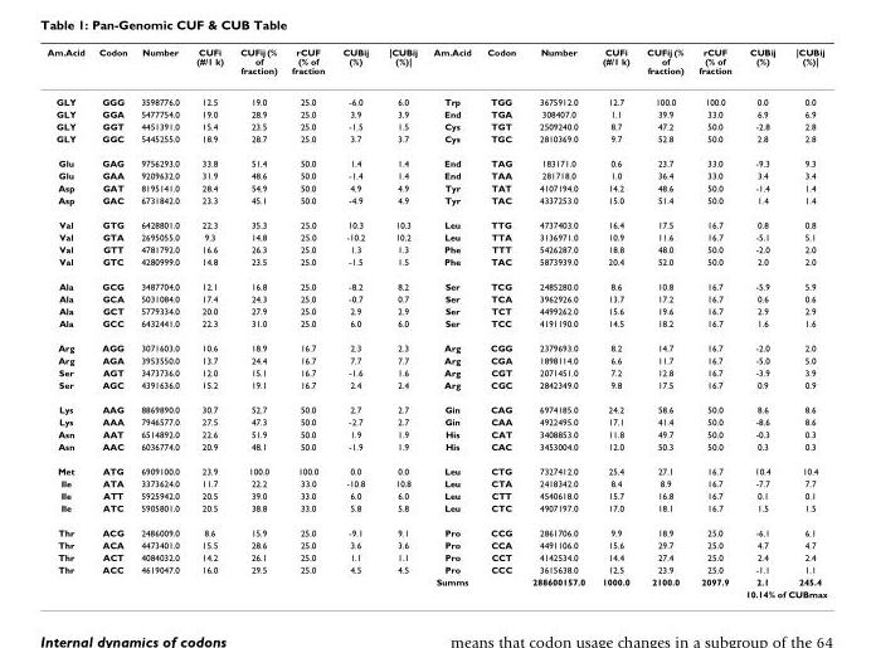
<table><thead><tr><td>Am.Acid</td><td>Codon</td><td>Number</td><td>CUFi (#/1 k)</td><td>CUFij (% of fraction)</td><td>rCUF (% of fraction</td><td>CUBij (%)</td><td>|CUBij (%)|</td><td>Am.Acid</td><td>Codon</td><td>Number</td><td>CUFi (#/1 k)</td><td>CUFij (% of fraction)</td><td>rCUF (% of fraction</td><td>CUBij (%)</td><td>|CUBij (%)|</td></tr></thead><tbody><tr><td>GLY</td><td>GGG</td><td>3598776.0</td><td>12.5</td><td>19.0</td><td>25.0</td><td>-6.0</td><td>6.0</td><td>Trp</td><td>TGG</td><td>3675912.0</td><td>12.7</td><td>100.0</td><td>100.0</td><td>0.0</td><td>0.0</td></tr><tr><td>GLY</td><td>GGA</td><td>5477754.0</td><td>19.0</td><td>28.9</td><td>25.0</td><td>3.9</td><td>3.9</td><td>End</td><td>TGA</td><td>308407.0</td><td>1.1</td><td>39.9</td><td>33.0</td><td>6.9</td><td>6.9</td></tr><tr><td>GLY</td><td>GGT</td><td>4451391.0</td><td>15.4</td><td>23.5</td><td>25.0</td><td>-1.5</td><td>1.5</td><td>Cys</td><td>TGT</td><td>2509240.0</td><td>8.7</td><td>47.2</td><td>50.0</td><td>-2.8</td><td>2.8</td></tr><tr><td>GLY</td><td>GGC</td><td>5445255.0</td><td>18.9</td><td>28.7</td><td>25.0</td><td>3.7</td><td>3.7</td><td>Cys</td><td>TGC</td><td>2810369.0</td><td>9.7</td><td>52.8</td><td>50.0</td><td>2.8</td><td>2.8</td></tr><tr><td>Glu</td><td>GAG</td><td>9756293.0</td><td>33.8</td><td>51.4</td><td>50.0</td><td>1.4</td><td>1.4</td><td>End</td><td>TAG</td><td>183171.0</td><td>0.6</td><td>23.7</td><td>33.0</td><td>-9.3</td><td>9.3</td></tr><tr><td>Glu</td><td>GAA</td><td>9209632.0</td><td>31.9</td><td>48.6</td><td>50.0</td><td>-1.4</td><td>1.4</td><td>End</td><td>TAA</td><td>281718.0</td><td>1.0</td><td>36.4</td><td>33.0</td><td>3.4</td><td>3.4</td></tr><tr><td>Asp</td><td>GAT</td><td>8195141.0</td><td>28.4</td><td>54.9</td><td>50.0</td><td>4.9</td><td>4.9</td><td>Tyr</td><td>TAT</td><td>4107194.0</td><td>14.2</td><td>48.6</td><td>50.0</td><td>-1.4</td><td>1.4</td></tr><tr><td>Asp</td><td>GAC</td><td>6731842.0</td><td>23.3</td><td>45.1</td><td>50.0</td><td>-4.9</td><td>4.9</td><td>Tyr</td><td>TAC</td><td>4337253.0</td><td>15.0</td><td>51.4</td><td>50.0</td><td>1.4</td><td>1.4</td></tr><tr><td>Val</td><td>GTG</td><td>6428801.0</td><td>22.3</td><td>35.3</td><td>25.0</td><td>10.3</td><td>10.3</td><td>Leu</td><td>TTG</td><td>4737403.0</td><td>16.4</td><td>17.5</td><td>16.7</td><td>0.8</td><td>0.8</td></tr><tr><td>Val</td><td>GTA</td><td>2695055.0</td><td>9.3</td><td>14.8</td><td>25.0</td><td>-10.2</td><td>10.2</td><td>Leu</td><td>TTA</td><td>3136971.0</td><td>10.9</td><td>11.6</td><td>16.7</td><td>-5.1</td><td>5.1</td></tr><tr><td>Val</td><td>GTT</td><td>4781792.0</td><td>16.6</td><td>26.3</td><td>25.0</td><td>1.3</td><td>1.3</td><td>Phe</td><td>TTT</td><td>5426287.0</td><td>18.8</td><td>48.0</td><td>50.0</td><td>-2.0</td><td>2.0</td></tr><tr><td>Val</td><td>GTC</td><td>4280999.0</td><td>14.8</td><td>23.5</td><td>25.0</td><td>-1.5</td><td>1.5</td><td>Phe</td><td>TAC</td><td>5873939.0</td><td>20.4</td><td>52.0</td><td>50.0</td><td>2.0</td><td>2.0</td></tr><tr><td>Ala</td><td>GCG</td><td>3487704.0</td><td>12.1</td><td>16.8</td><td>25.0</td><td>-8.2</td><td>8.2</td><td>Ser</td><td>TCG</td><td>2485280.0</td><td>8.6</td><td>10.8</td><td>16.7</td><td>-5.9</td><td>5.9</td></tr><tr><td>Ala</td><td>GCA</td><td>5031084.0</td><td>17.4</td><td>24.3</td><td>25.0</td><td>-0.7</td><td>0.7</td><td>Ser</td><td>TCA</td><td>3962926.0</td><td>13.7</td><td>17.2</td><td>16.7</td><td>0.6</td><td>0.6</td></tr><tr><td>Ala</td><td>GCT</td><td>5779334.0</td><td>20.0</td><td>27.9</td><td>25.0</td><td>2.9</td><td>2.9</td><td>Ser</td><td>TCT</td><td>4499262.0</td><td>15.6</td><td>19.6</td><td>16.7</td><td>2.9</td><td>2.9</td></tr><tr><td>Ala</td><td>GCC</td><td>6432441.0</td><td>22.3</td><td>31.0</td><td>25.0</td><td>6.0</td><td>6.0</td><td>Ser</td><td>TCC</td><td>4191190.0</td><td>14.5</td><td>18.2</td><td>16.7</td><td>1.6</td><td>1.6</td></tr><tr><td>Arg</td><td>AGG</td><td>3071603.0</td><td>10.6</td><td>18.9</td><td>16.7</td><td>2.3</td><td>2.3</td><td>Arg</td><td>CGG</td><td>2379693.0</td><td>8.2</td><td>14.7</td><td>16.7</td><td>-2.0</td><td>2.0</td></tr><tr><td>Arg</td><td>AGA</td><td>3953550.0</td><td>13.7</td><td>24.4</td><td>16.7</td><td>7.7</td><td>7.7</td><td>Arg</td><td>CGA</td><td>1898114.0</td><td>6.6</td><td>11.7</td><td>16.7</td><td>-5.0</td><td>5.0</td></tr><tr><td>Ser</td><td>AGT</td><td>3473736.0</td><td>12.0</td><td>15.1</td><td>16.7</td><td>-1.6</td><td>1.6</td><td>Arg</td><td>CGT</td><td>2071451.0</td><td>7.2</td><td>12.8</td><td>16.7</td><td>-3.9</td><td>3.9</td></tr><tr><td>Ser</td><td>AGC</td><td>4391636.0</td><td>15.2</td><td>19.1</td><td>16.7</td><td>2.4</td><td>2.4</td><td>Arg</td><td>CGC</td><td>2842349.0</td><td>9.8</td><td>17.5</td><td>16.7</td><td>0.9</td><td>0.9</td></tr><tr><td>Lys</td><td>AAG</td><td>8869890.0</td><td>30.7</td><td>52.7</td><td>50.0</td><td>2.7</td><td>2.7</td><td>Gin</td><td>CAG</td><td>6974185.0</td><td>24.2</td><td>58.6</td><td>50.0</td><td>8.6</td><td>8.6</td></tr><tr><td>Lys</td><td>AAA</td><td>7946577.0</td><td>27.5</td><td>47.3</td><td>50.0</td><td>-2.7</td><td>2.7</td><td>Gin</td><td>CAA</td><td>4922495.0</td><td>17.1</td><td>41.4</td><td>50.0</td><td>-8.6</td><td>8.6</td></tr><tr><td>Asn</td><td>AAT</td><td>6514892.0</td><td>22.6</td><td>51.9</td><td>50.0</td><td>1.9</td><td>1.9</td><td>His</td><td>CAT</td><td>3408853.0</td><td>11.8</td><td>49.7</td><td>50.0</td><td>-0.3</td><td>0.3</td></tr><tr><td>Asn</td><td>AAC</td><td>6036774.0</td><td>20.9</td><td>48.1</td><td>50.0</td><td>-1.9</td><td>1.9</td><td>His</td><td>CAC</td><td>3453004.0</td><td>12.0</td><td>50.3</td><td>50.0</td><td>0.3</td><td>0.3</td></tr><tr><td>Met</td><td>ATG</td><td>6909100.0</td><td>23.9</td><td>100.0</td><td>100.0</td><td>0.0</td><td>0.0</td><td>Leu</td><td>CTG</td><td>7327412.0</td><td>25.4</td><td>27.1</td><td>16.7</td><td>10.4</td><td>10.4</td></tr><tr><td>Ile</td><td>ATA</td><td>3373624.0</td><td>11.7</td><td>22.2</td><td>33.0</td><td>-10.8</td><td>10.8</td><td>Leu</td><td>CTA</td><td>2418342.0</td><td>8.4</td><td>8.9</td><td>16.7</td><td>-7.7</td><td>7.7</td></tr><tr><td>Ile</td><td>ATT</td><td>5925942.0</td><td>20.5</td><td>39.0</td><td>33.0</td><td>6.0</td><td>6.0</td><td>Leu</td><td>CTT</td><td>4540618.0</td><td>15.7</td><td>16.8</td><td>16.7</td><td>0.1</td><td>0.1</td></tr><tr><td>Ile</td><td>ATC</td><td>5905801.0</td><td>20.5</td><td>38.8</td><td>33.0</td><td>5.8</td><td>5.8</td><td>Leu</td><td>CTC</td><td>4907197.0</td><td>17.0</td><td>18.1</td><td>16.7</td><td>1.5</td><td>1.5</td></tr><tr><td>Thr</td><td>ACG</td><td>2486009.0</td><td>8.6</td><td>15.9</td><td>25.0</td><td>-9.1</td><td>9.1</td><td>Pro</td><td>CCG</td><td>2861706.0</td><td>9.9</td><td>18.9</td><td>25.0</td><td>-6.1</td><td>6.1</td></tr><tr><td>Thr</td><td>ACA</td><td>4473401.0</td><td>15.5</td><td>28.6</td><td>25.0</td><td>3.6</td><td>3.6</td><td>Pro</td><td>CCA</td><td>4491106.0</td><td>15.6</td><td>29.7</td><td>25.0</td><td>4.7</td><td>4.7</td></tr><tr><td>Thr</td><td>ACT</td><td>4084032.0</td><td>14.2</td><td>26.1</td><td>25.0</td><td>1.1</td><td>1.1</td><td>Pro</td><td>CCT</td><td>4142534.0</td><td>14.4</td><td>27.4</td><td>25.0</td><td>2.4</td><td>2.4</td></tr><tr><td rowspan="3">Thr</td><td>ACC</td><td>4619047.0</td><td>16.0</td><td>29.5</td><td>25.0</td><td>4.5</td><td>4.5</td><td>Pro</td><td>CCC</td><td>3615638.0</td><td>12.5</td><td>23.9</td><td>25.0</td><td>-1.1</td><td>1.1</td></tr><tr><td></td><td></td><td></td><td></td><td></td><td></td><td></td><td>Summs</td><td></td><td>288600157.0</td><td>1000.0</td><td>2100.0</td><td>2097.9</td><td>2.1</td><td>245.4</td></tr><tr><td></td><td></td><td></td><td></td><td></td><td></td><td></td><td></td><td></td><td></td><td></td><td></td><td></td><td colspan="2">10.14% of CUBmax</td></tr></tbody></table>